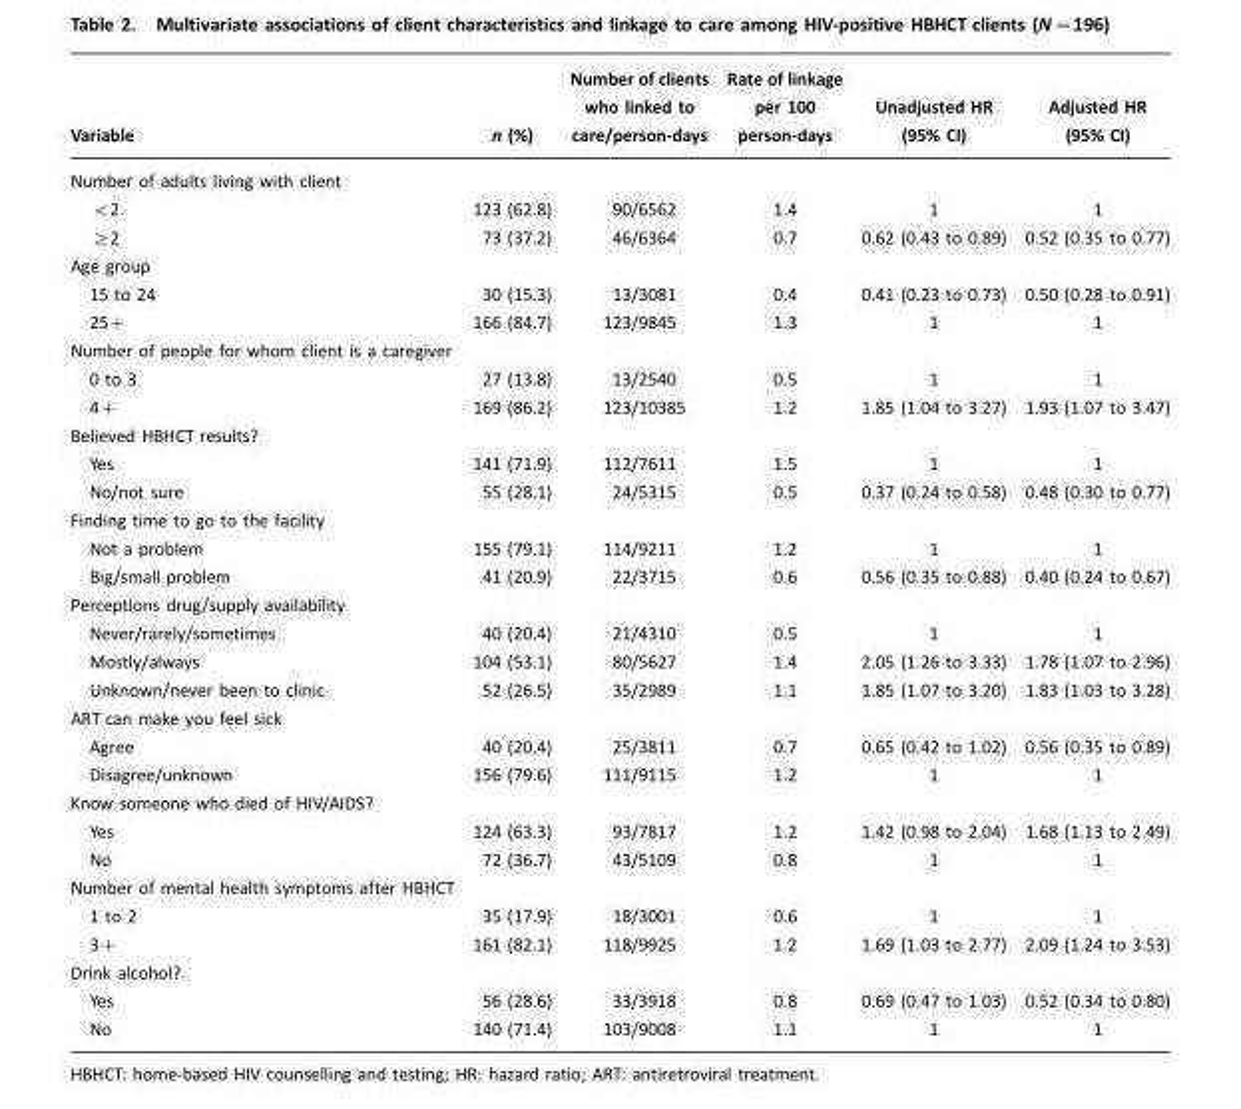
<table><thead><tr><td>Variable</td><td>n (%)</td><td>Number of clients who linked to care/person-days</td><td>Rate of linkage per 100 person-days</td><td>Unadjusted HR (95% CI)</td><td>Adjusted HR (95% CI)</td></tr></thead><tbody><tr><td colspan="6">Number of adults living with client</td></tr><tr><td>&lt;2</td><td>123 (62.8)</td><td>90/6562</td><td>1.4</td><td>1</td><td>1</td></tr><tr><td>≥2</td><td>73 (37.2)</td><td>46/6364</td><td>0.7</td><td>0.62 (0.43 to 0.89)</td><td>0.52 (0.35 to 0.77)</td></tr><tr><td colspan="6">Age group</td></tr><tr><td>15 to 24</td><td>30 (15.3)</td><td>13/3081</td><td>0.4</td><td>0.41 (0.23 to 0.73)</td><td>0.50 (0.28 to 0.91)</td></tr><tr><td>25+</td><td>166 (84.7)</td><td>123/9845</td><td>1.3</td><td>1</td><td>1</td></tr><tr><td colspan="6">Number of people for whom client is a caregiver</td></tr><tr><td>0 to 3</td><td>27 (13.8)</td><td>13/2540</td><td>0.5</td><td>1</td><td>1</td></tr><tr><td>4+</td><td>169 (86.2)</td><td>123/10385</td><td>1.2</td><td>1.85 (1.04 to 3.27)</td><td>1.93 (1.07 to 3.47)</td></tr><tr><td colspan="6">Believed HBHCT results?</td></tr><tr><td>Yes</td><td>141 (71.9)</td><td>112/7611</td><td>1.5</td><td>1</td><td>1</td></tr><tr><td>No/not sure</td><td>55 (28.1)</td><td>24/5315</td><td>0.5</td><td>0.37 (0.24 to 0.58)</td><td>0.48 (0.30 to 0.77)</td></tr><tr><td colspan="6">Finding time to go to the facility</td></tr><tr><td>Not a problem</td><td>155 (79.1)</td><td>114/9211</td><td>1.2</td><td>1</td><td>1</td></tr><tr><td>Big/small problem</td><td>41 (20.9)</td><td>22/3715</td><td>0.6</td><td>0.56 (0.35 to 0.88)</td><td>0.40 (0.24 to 0.67)</td></tr><tr><td colspan="6">Perceptions drug/supply availability</td></tr><tr><td>Never/rarely/sometimes</td><td>40 (20.4)</td><td>21/4310</td><td>0.5</td><td>1</td><td>1</td></tr><tr><td>Mostly/always</td><td>104 (53.1)</td><td>80/5627</td><td>1.4</td><td>2.05 (1.26 to 3.33)</td><td>1.78 (1.07 to 2.96)</td></tr><tr><td>Unknown/never been to clinic</td><td>52 (26.5)</td><td>35/2989</td><td>1.1</td><td>1.85 (1.07 to 3.20)</td><td>1.83 (1.03 to 3.28)</td></tr><tr><td colspan="6">ART can make you feel sick</td></tr><tr><td>Agree</td><td>40 (20.4)</td><td>25/3811</td><td>0.7</td><td>0.65 (0.42 to 1.02)</td><td>0.56 (0.35 to 0.89)</td></tr><tr><td>Disagree/unknown</td><td>156 (79.6)</td><td>111/9115</td><td>1.2</td><td>1</td><td>1</td></tr><tr><td colspan="6">Know someone who died of HIV/AIDS?</td></tr><tr><td>Yes</td><td>124 (63.3)</td><td>93/7817</td><td>1.2</td><td>1.42 (0.98 to 2.04)</td><td>1.68 (1.13 to 2.49)</td></tr><tr><td>No</td><td>72 (36.7)</td><td>43/5109</td><td>0.8</td><td>1</td><td>1</td></tr><tr><td colspan="6">Number of mental health symptoms after HBHCT</td></tr><tr><td>1 to 2</td><td>35 (17.9)</td><td>18/3001</td><td>0.6</td><td>1</td><td>1</td></tr><tr><td>3+</td><td>161 (82.1)</td><td>118/9925</td><td>1.2</td><td>1.69 (1.03 to 2.77)</td><td>2.09 (1.24 to 3.53)</td></tr><tr><td colspan="6">Drink alcohol?</td></tr><tr><td>Yes</td><td>56 (28.6)</td><td>33/3918</td><td>0.8</td><td>0.69 (0.47 to 1.03)</td><td>0.52 (0.34 to 0.80)</td></tr><tr><td>No</td><td>140 (71.4)</td><td>103/9008</td><td>1.1</td><td>1</td><td>1</td></tr></tbody></table>